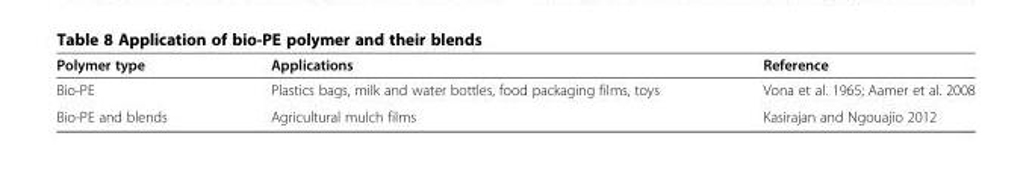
<table><thead><tr><td>Polymer type</td><td>Applications</td><td>Reference</td></tr></thead><tbody><tr><td>Bio-PE</td><td>Plastics bags, milk and water bottles, food packaging films, toys</td><td>Vona et al. 1965; Aamer et al. 2008</td></tr><tr><td>Bio-PE and blends</td><td>Agricultural mulch films</td><td>Kasirajan and Ngouajio 2012</td></tr></tbody></table>